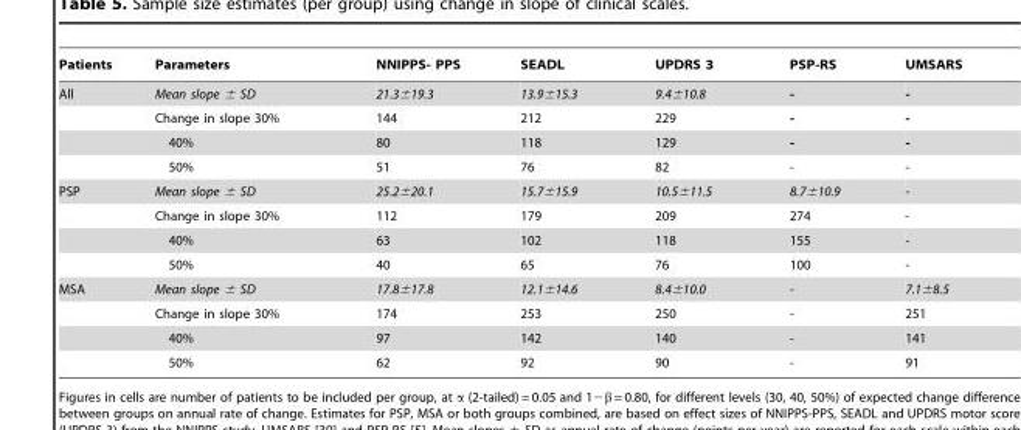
<table><thead><tr><td>Patients</td><td>Parameters</td><td>NNIPPS- PPS</td><td>SEADL</td><td>UPDRS 3</td><td>PSP-RS</td><td>UMSARS</td></tr></thead><tbody><tr><td rowspan="4">All</td><td>Mean slope ± SD</td><td>21.3±19.3</td><td>13.9±15.3</td><td>9.4±10.8</td><td>-</td><td>-</td></tr><tr><td>Change in slope 30%</td><td>144</td><td>212</td><td>229</td><td>-</td><td>-</td></tr><tr><td>40%</td><td>80</td><td>118</td><td>129</td><td>-</td><td>-</td></tr><tr><td>50%</td><td>51</td><td>76</td><td>82</td><td>-</td><td>-</td></tr><tr><td rowspan="4">PSP</td><td>Mean slope ± SD</td><td>25.2±20.1</td><td>15.7±15.9</td><td>10.5±11.5</td><td>8.7±10.9</td><td>-</td></tr><tr><td>Change in slope 30%</td><td>112</td><td>179</td><td>209</td><td>274</td><td>-</td></tr><tr><td>40%</td><td>63</td><td>102</td><td>118</td><td>155</td><td>-</td></tr><tr><td>50%</td><td>40</td><td>65</td><td>76</td><td>100</td><td>-</td></tr><tr><td rowspan="4">MSA</td><td>Mean slope ± SD</td><td>17.8±17.8</td><td>12.1±14.6</td><td>8.4±10.0</td><td>-</td><td>7.1±8.5</td></tr><tr><td>Change in slope 30%</td><td>174</td><td>253</td><td>250</td><td>-</td><td>251</td></tr><tr><td>40%</td><td>97</td><td>142</td><td>140</td><td>-</td><td>141</td></tr><tr><td>50%</td><td>62</td><td>92</td><td>90</td><td>-</td><td>91</td></tr></tbody></table>